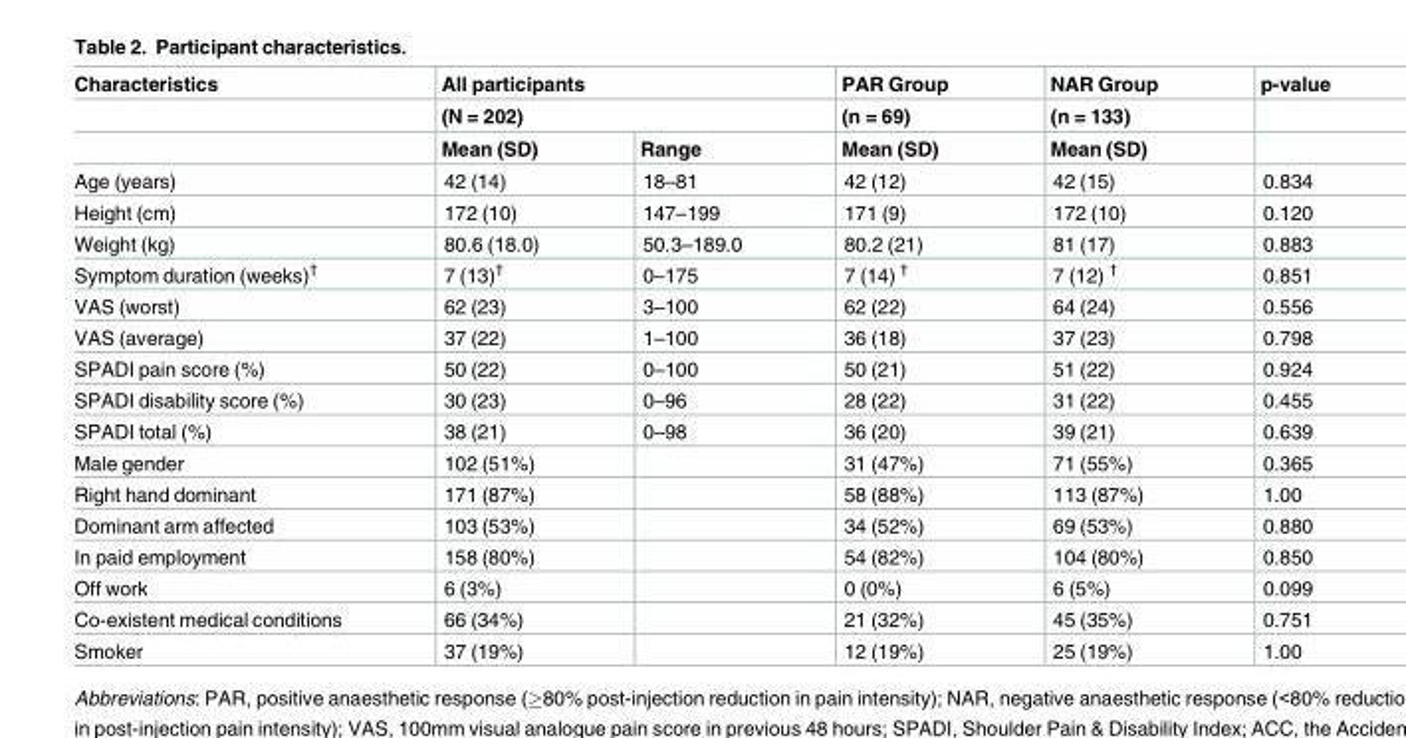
<table><thead><tr><td rowspan="3">Characteristics</td><td rowspan="2" colspan="2">All participants (N = 202)</td><td rowspan="3">PAR Group (n = 69) Mean (SD)</td><td rowspan="3">NAR Group (n = 133) Mean (SD)</td><td rowspan="3">p-value</td></tr><tr></tr><tr><td>Mean (SD)</td><td>Range</td></tr></thead><tbody><tr><td>Age (years)</td><td>42 (14)</td><td>18–81</td><td>42 (12)</td><td>42 (15)</td><td>0.834</td></tr><tr><td>Height (cm)</td><td>172 (10)</td><td>147–199</td><td>171 (9)</td><td>172 (10)</td><td>0.120</td></tr><tr><td>Weight (kg)</td><td>80.6 (18.0)</td><td>50.3–189.0</td><td>80.2 (21)</td><td>81 (17)</td><td>0.883</td></tr><tr><td>Symptom duration (weeks)<sup>†</sup></td><td>7 (13)<sup>†</sup></td><td>0–175</td><td>7 (14) <sup>†</sup></td><td>7 (12) <sup>†</sup></td><td>0.851</td></tr><tr><td>VAS (worst)</td><td>62 (23)</td><td>3–100</td><td>62 (22)</td><td>64 (24)</td><td>0.556</td></tr><tr><td>VAS (average)</td><td>37 (22)</td><td>1–100</td><td>36 (18)</td><td>37 (23)</td><td>0.798</td></tr><tr><td>SPADI pain score (%)</td><td>50 (22)</td><td>0–100</td><td>50 (21)</td><td>51 (22)</td><td>0.924</td></tr><tr><td>SPADI disability score (%)</td><td>30 (23)</td><td>0–96</td><td>28 (22)</td><td>31 (22)</td><td>0.455</td></tr><tr><td>SPADI total (%)</td><td>38 (21)</td><td>0–98</td><td>36 (20)</td><td>39 (21)</td><td>0.639</td></tr><tr><td>Male gender</td><td>102 (51%)</td><td></td><td>31 (47%)</td><td>71 (55%)</td><td>0.365</td></tr><tr><td>Right hand dominant</td><td>171 (87%)</td><td></td><td>58 (88%)</td><td>113 (87%)</td><td>1.00</td></tr><tr><td>Dominant arm affected</td><td>103 (53%)</td><td></td><td>34 (52%)</td><td>69 (53%)</td><td>0.880</td></tr><tr><td>In paid employment</td><td>158 (80%)</td><td></td><td>54 (82%)</td><td>104 (80%)</td><td>0.850</td></tr><tr><td>Off work</td><td>6 (3%)</td><td></td><td>0 (0%)</td><td>6 (5%)</td><td>0.099</td></tr><tr><td>Co-existent medical conditions</td><td>66 (34%)</td><td></td><td>21 (32%)</td><td>45 (35%)</td><td>0.751</td></tr><tr><td>Smoker</td><td>37 (19%)</td><td></td><td>12 (19%)</td><td>25 (19%)</td><td>1.00</td></tr></tbody></table>